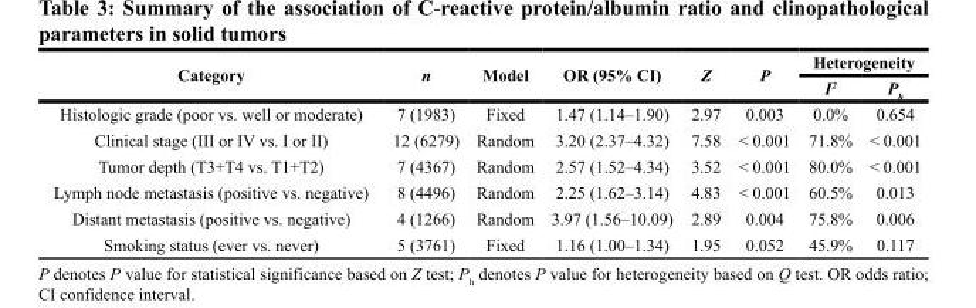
<table><thead><tr><td rowspan="2">Category</td><td rowspan="2">n</td><td rowspan="2">Model</td><td rowspan="2">OR (95% CI)</td><td rowspan="2">Z</td><td rowspan="2">P</td><td colspan="2">Heterogeneity</td></tr><tr><td>I<sup>2</sup></td><td>P<sub>h</sub></td></tr></thead><tbody><tr><td>Histologic grade (poor vs. well or moderate)</td><td>7 (1983)</td><td>Fixed</td><td>1.47 (1.14–1.90)</td><td>2.97</td><td>0.003</td><td>0.0%</td><td>0.654</td></tr><tr><td>Clinical stage (III or IV vs. I or II)</td><td>12 (6279)</td><td>Random</td><td>3.20 (2.37–4.32)</td><td>7.58</td><td>&lt; 0.001</td><td>71.8%</td><td>&lt; 0.001</td></tr><tr><td>Tumor depth (T3+T4 vs. T1+T2)</td><td>7 (4367)</td><td>Random</td><td>2.57 (1.52–4.34)</td><td>3.52</td><td>&lt; 0.001</td><td>80.0%</td><td>&lt; 0.001</td></tr><tr><td>Lymph node metastasis (positive vs. negative)</td><td>8 (4496)</td><td>Random</td><td>2.25 (1.62–3.14)</td><td>4.83</td><td>&lt; 0.001</td><td>60.5%</td><td>0.013</td></tr><tr><td>Distant metastasis (positive vs. negative)</td><td>4 (1266)</td><td>Random</td><td>3.97 (1.56–10.09)</td><td>2.89</td><td>0.004</td><td>75.8%</td><td>0.006</td></tr><tr><td>Smoking status (ever vs. never)</td><td>5 (3761)</td><td>Fixed</td><td>1.16 (1.00–1.34)</td><td>1.95</td><td>0.052</td><td>45.9%</td><td>0.117</td></tr></tbody></table>